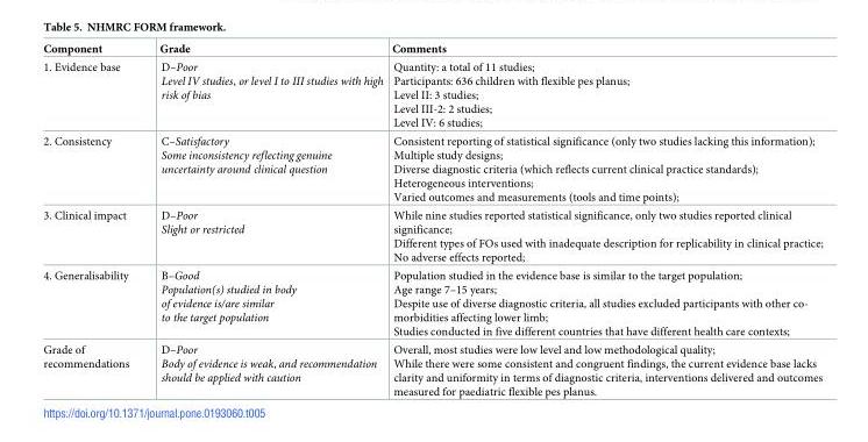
<table><thead><tr><td>Component</td><td>Grade</td><td>Comments</td></tr></thead><tbody><tr><td>1. Evidence base</td><td>D–Poor Level IV studies, or level I to III studies with high risk of bias</td><td>Quantity: a total of 11 studies; Participants: 636 children with flexible pes planus; Level II: 3 studies; Level III-2: 2 studies; Level IV: 6 studies;</td></tr><tr><td>2. Consistency</td><td>C–Satisfactory Some inconsistency reflecting genuine uncertainty around clinical question</td><td>Consistent reporting of statistical significance (only two studies lacking this information); Multiple study designs; Diverse diagnostic criteria (which reflects current clinical practice standards); Heterogeneous interventions; Varied outcomes and measurements (tools and time points);</td></tr><tr><td>3. Clinical impact</td><td>D–Poor Slight or restricted</td><td>While nine studies reported statistical significance, only two studies reported clinical significance; Different types of FOs used with inadequate description for replicability in clinical practice; No adverse effects reported;</td></tr><tr><td>4. Generalisability</td><td>B–Good Population(s) studied in body of evidence is/are similar to the target population</td><td>Population studied in the evidence base is similar to the target population; Age range 7–15 years; Despite use of diverse diagnostic criteria, all studies excluded participants with other co- morbidities affecting lower limb; Studies conducted in five different countries that have different health care contexts;</td></tr><tr><td>Grade of recommendations</td><td>D–Poor Body of evidence is weak, and recommendation should be applied with caution</td><td>Overall, most studies were low level and low methodological quality; While there were some consistent and congruent findings, the current evidence base lacks clarity and uniformity in terms of diagnostic criteria, interventions delivered and outcomes measured for paediatric flexible pes planus.</td></tr></tbody></table>